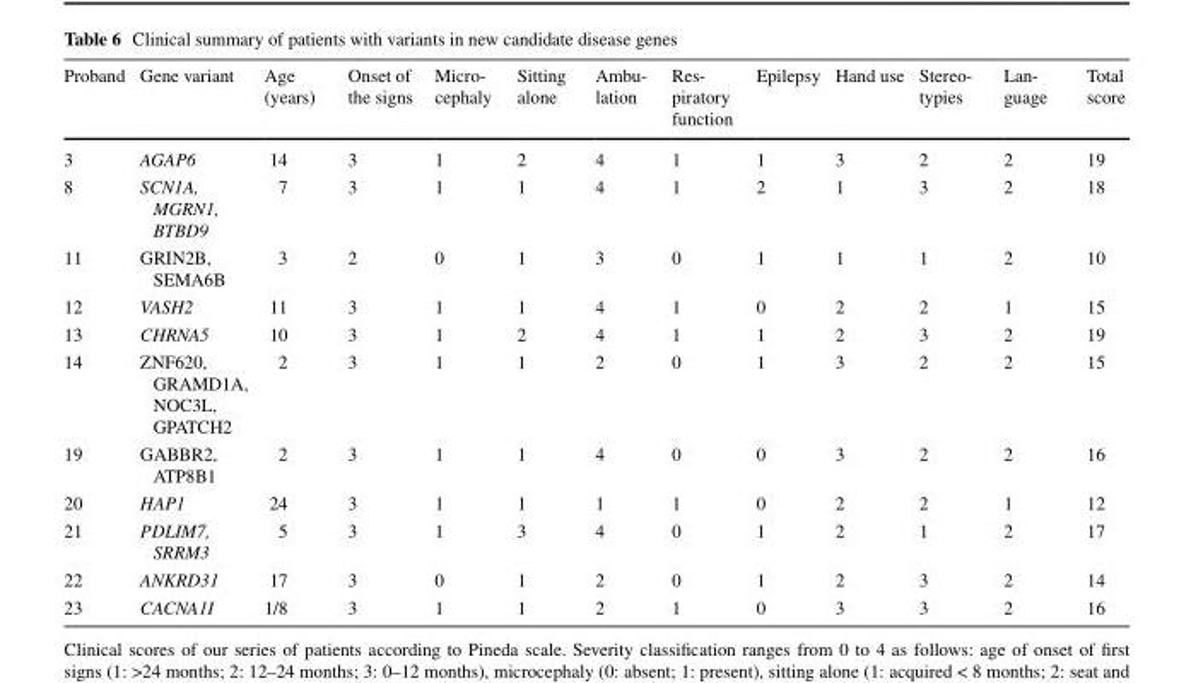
<table><thead><tr><td>Proband</td><td>Gene variant</td><td>Age (years)</td><td>Onset of the signs</td><td>Micro- cephaly</td><td>Sitting alone</td><td>Ambu- lation</td><td>Res- piratory function</td><td>Epilepsy</td><td>Hand use</td><td>Stereo- typies</td><td>Lan- guage</td><td>Total score</td></tr></thead><tbody><tr><td>3</td><td>AGAP6</td><td>14</td><td>3</td><td>1</td><td>2</td><td>4</td><td>1</td><td>1</td><td>3</td><td>2</td><td>2</td><td>19</td></tr><tr><td>8</td><td>SCN1A, MGRN1, BTBD9</td><td>7</td><td>3</td><td>1</td><td>1</td><td>4</td><td>1</td><td>2</td><td>1</td><td>3</td><td>2</td><td>18</td></tr><tr><td>11</td><td>GRIN2B, SEMA6B</td><td>3</td><td>2</td><td>0</td><td>1</td><td>3</td><td>0</td><td>1</td><td>1</td><td>1</td><td>2</td><td>10</td></tr><tr><td>12</td><td>VASH2</td><td>11</td><td>3</td><td>1</td><td>1</td><td>4</td><td>1</td><td>0</td><td>2</td><td>2</td><td>1</td><td>15</td></tr><tr><td>13</td><td>CHRNA5</td><td>10</td><td>3</td><td>1</td><td>2</td><td>4</td><td>1</td><td>1</td><td>2</td><td>3</td><td>2</td><td>19</td></tr><tr><td>14</td><td>ZNF620, GRAMD1A, NOC3L, GPATCH2</td><td>2</td><td>3</td><td>1</td><td>1</td><td>2</td><td>0</td><td>1</td><td>3</td><td>2</td><td>2</td><td>15</td></tr><tr><td>19</td><td>GABBR2, ATP8B1</td><td>2</td><td>3</td><td>1</td><td>1</td><td>4</td><td>0</td><td>0</td><td>3</td><td>2</td><td>2</td><td>16</td></tr><tr><td>20</td><td>HAP1</td><td>24</td><td>3</td><td>1</td><td>1</td><td>1</td><td>1</td><td>0</td><td>2</td><td>2</td><td>1</td><td>12</td></tr><tr><td>21</td><td>PDLIM7, SRRM3</td><td>5</td><td>3</td><td>1</td><td>3</td><td>4</td><td>0</td><td>1</td><td>2</td><td>1</td><td>2</td><td>17</td></tr><tr><td>22</td><td>ANKRD31</td><td>17</td><td>3</td><td>0</td><td>1</td><td>2</td><td>0</td><td>1</td><td>2</td><td>3</td><td>2</td><td>14</td></tr><tr><td>23</td><td>CACNA1I</td><td>1/8</td><td>3</td><td>1</td><td>1</td><td>2</td><td>1</td><td>0</td><td>3</td><td>3</td><td>2</td><td>16</td></tr></tbody></table>